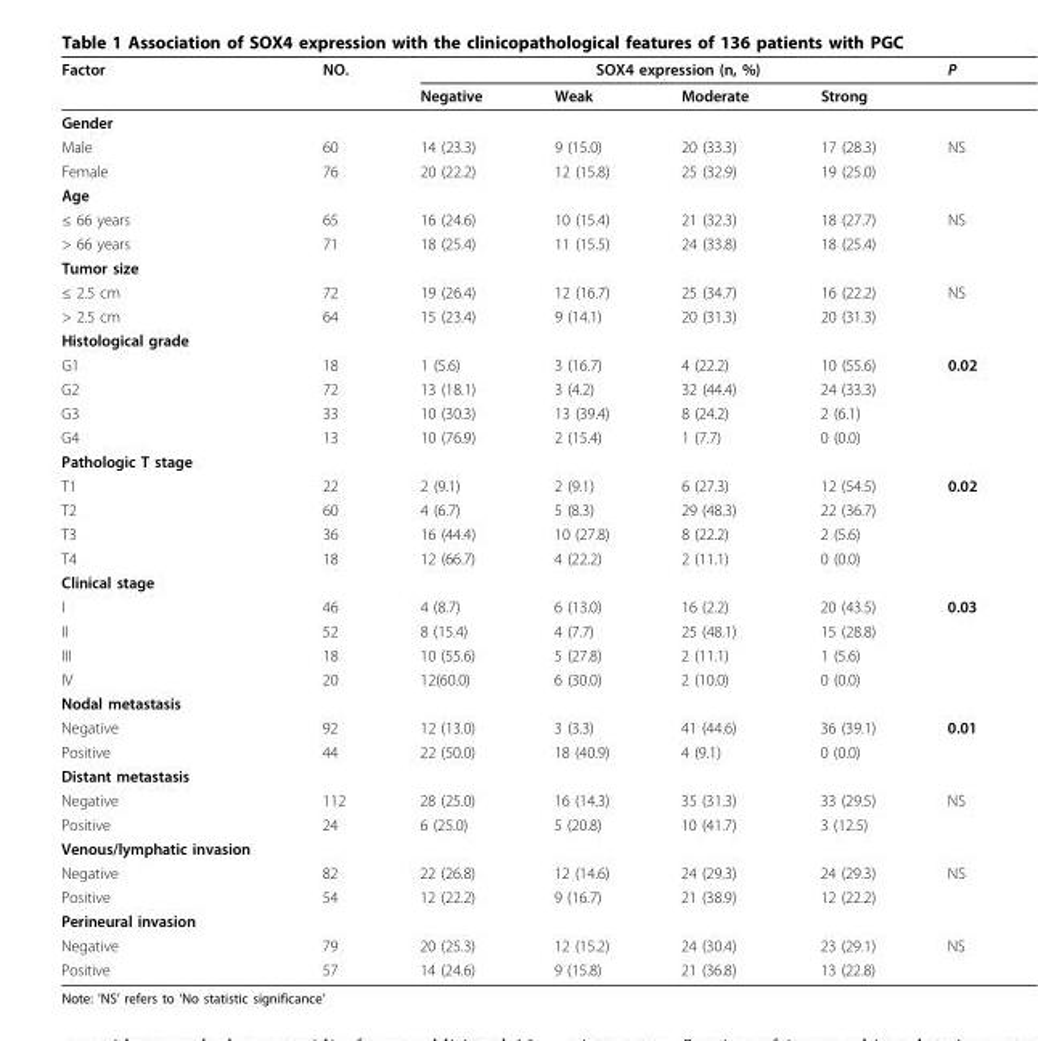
<table><thead><tr><td rowspan="2">Factor</td><td rowspan="2">NO.</td><td colspan="4">SOX4 expression (n, %)</td><td rowspan="2">P</td></tr><tr><td>Negative</td><td>Weak</td><td>Moderate</td><td>Strong</td></tr></thead><tbody><tr><td colspan="7">Gender</td></tr><tr><td>Male</td><td>60</td><td>14 (23.3)</td><td>9 (15.0)</td><td>20 (33.3)</td><td>17 (28.3)</td><td>NS</td></tr><tr><td>Female</td><td>76</td><td>20 (22.2)</td><td>12 (15.8)</td><td>25 (32.9)</td><td>19 (25.0)</td><td></td></tr><tr><td colspan="7">Age</td></tr><tr><td>≤ 66 years</td><td>65</td><td>16 (24.6)</td><td>10 (15.4)</td><td>21 (32.3)</td><td>18 (27.7)</td><td>NS</td></tr><tr><td>&gt; 66 years</td><td>71</td><td>18 (25.4)</td><td>11 (15.5)</td><td>24 (33.8)</td><td>18 (25.4)</td><td></td></tr><tr><td colspan="7">Tumor size</td></tr><tr><td>≤ 2.5 cm</td><td>72</td><td>19 (26.4)</td><td>12 (16.7)</td><td>25 (34.7)</td><td>16 (22.2)</td><td>NS</td></tr><tr><td>&gt; 2.5 cm</td><td>64</td><td>15 (23.4)</td><td>9 (14.1)</td><td>20 (31.3)</td><td>20 (31.3)</td><td></td></tr><tr><td colspan="7">Histological grade</td></tr><tr><td>G1</td><td>18</td><td>1 (5.6)</td><td>3 (16.7)</td><td>4 (22.2)</td><td>10 (55.6)</td><td>0.02</td></tr><tr><td>G2</td><td>72</td><td>13 (18.1)</td><td>3 (4.2)</td><td>32 (44.4)</td><td>24 (33.3)</td><td></td></tr><tr><td>G3</td><td>33</td><td>10 (30.3)</td><td>13 (39.4)</td><td>8 (24.2)</td><td>2 (6.1)</td><td></td></tr><tr><td>G4</td><td>13</td><td>10 (76.9)</td><td>2 (15.4)</td><td>1 (7.7)</td><td>0 (0.0)</td><td></td></tr><tr><td colspan="7">Pathologic T stage</td></tr><tr><td>T1</td><td>22</td><td>2 (9.1)</td><td>2 (9.1)</td><td>6 (27.3)</td><td>12 (54.5)</td><td>0.02</td></tr><tr><td>T2</td><td>60</td><td>4 (6.7)</td><td>5 (8.3)</td><td>29 (48.3)</td><td>22 (36.7)</td><td></td></tr><tr><td>T3</td><td>36</td><td>16 (44.4)</td><td>10 (27.8)</td><td>8 (22.2)</td><td>2 (5.6)</td><td></td></tr><tr><td>T4</td><td>18</td><td>12 (66.7)</td><td>4 (22.2)</td><td>2 (11.1)</td><td>0 (0.0)</td><td></td></tr><tr><td colspan="7">Clinical stage</td></tr><tr><td>I</td><td>46</td><td>4 (8.7)</td><td>6 (13.0)</td><td>16 (2.2)</td><td>20 (43.5)</td><td>0.03</td></tr><tr><td>II</td><td>52</td><td>8 (15.4)</td><td>4 (7.7)</td><td>25 (48.1)</td><td>15 (28.8)</td><td></td></tr><tr><td>III</td><td>18</td><td>10 (55.6)</td><td>5 (27.8)</td><td>2 (11.1)</td><td>1 (5.6)</td><td></td></tr><tr><td>IV</td><td>20</td><td>12(60.0)</td><td>6 (30.0)</td><td>2 (10.0)</td><td>0 (0.0)</td><td></td></tr><tr><td colspan="7">Nodal metastasis</td></tr><tr><td>Negative</td><td>92</td><td>12 (13.0)</td><td>3 (3.3)</td><td>41 (44.6)</td><td>36 (39.1)</td><td>0.01</td></tr><tr><td>Positive</td><td>44</td><td>22 (50.0)</td><td>18 (40.9)</td><td>4 (9.1)</td><td>0 (0.0)</td><td></td></tr><tr><td colspan="7">Distant metastasis</td></tr><tr><td>Negative</td><td>112</td><td>28 (25.0)</td><td>16 (14.3)</td><td>35 (31.3)</td><td>33 (29.5)</td><td>NS</td></tr><tr><td>Positive</td><td>24</td><td>6 (25.0)</td><td>5 (20.8)</td><td>10 (41.7)</td><td>3 (12.5)</td><td></td></tr><tr><td colspan="7">Venous/lymphatic invasion</td></tr><tr><td>Negative</td><td>82</td><td>22 (26.8)</td><td>12 (14.6)</td><td>24 (29.3)</td><td>24 (29.3)</td><td>NS</td></tr><tr><td>Positive</td><td>54</td><td>12 (22.2)</td><td>9 (16.7)</td><td>21 (38.9)</td><td>12 (22.2)</td><td></td></tr><tr><td colspan="7">Perineural invasion</td></tr><tr><td>Negative</td><td>79</td><td>20 (25.3)</td><td>12 (15.2)</td><td>24 (30.4)</td><td>23 (29.1)</td><td>NS</td></tr><tr><td>Positive</td><td>57</td><td>14 (24.6)</td><td>9 (15.8)</td><td>21 (36.8)</td><td>13 (22.8)</td><td></td></tr></tbody></table>